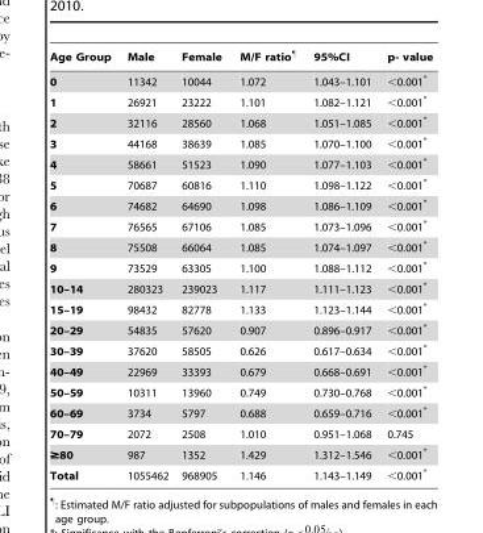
<table><thead><tr><td>Age Group</td><td>Male</td><td>Female</td><td>M/F ratio¶</td><td>95%CI</td><td>p- value</td></tr></thead><tbody><tr><td>0</td><td>11342</td><td>10044</td><td>1.072</td><td>1.043–1.101</td><td>&lt;0.001*</td></tr><tr><td>1</td><td>26921</td><td>23222</td><td>1.101</td><td>1.082–1.121</td><td>&lt;0.001*</td></tr><tr><td>2</td><td>32116</td><td>28560</td><td>1.068</td><td>1.051–1.085</td><td>&lt;0.001*</td></tr><tr><td>3</td><td>44168</td><td>38639</td><td>1.085</td><td>1.070–1.100</td><td>&lt;0.001*</td></tr><tr><td>4</td><td>58661</td><td>51523</td><td>1.090</td><td>1.077–1.103</td><td>&lt;0.001*</td></tr><tr><td>5</td><td>70687</td><td>60816</td><td>1.110</td><td>1.098–1.122</td><td>&lt;0.001*</td></tr><tr><td>6</td><td>74682</td><td>64690</td><td>1.098</td><td>1.086–1.109</td><td>&lt;0.001*</td></tr><tr><td>7</td><td>76565</td><td>67106</td><td>1.085</td><td>1.073–1.096</td><td>&lt;0.001*</td></tr><tr><td>8</td><td>75508</td><td>66064</td><td>1.085</td><td>1.074–1.097</td><td>&lt;0.001*</td></tr><tr><td>9</td><td>73529</td><td>63305</td><td>1.100</td><td>1.088–1.112</td><td>&lt;0.001*</td></tr><tr><td>10–14</td><td>280323</td><td>239023</td><td>1.117</td><td>1.111–1.123</td><td>&lt;0.001*</td></tr><tr><td>15–19</td><td>98432</td><td>82778</td><td>1.133</td><td>1.123–1.144</td><td>&lt;0.001*</td></tr><tr><td>20–29</td><td>54835</td><td>57620</td><td>0.907</td><td>0.896–0.917</td><td>&lt;0.001*</td></tr><tr><td>30–39</td><td>37620</td><td>58505</td><td>0.626</td><td>0.617–0.634</td><td>&lt;0.001*</td></tr><tr><td>40–49</td><td>22969</td><td>33393</td><td>0.679</td><td>0.668–0.691</td><td>&lt;0.001*</td></tr><tr><td>50–59</td><td>10311</td><td>13960</td><td>0.749</td><td>0.730–0.768</td><td>&lt;0.001*</td></tr><tr><td>60–69</td><td>3734</td><td>5797</td><td>0.688</td><td>0.659–0.716</td><td>&lt;0.001*</td></tr><tr><td>70–79</td><td>2072</td><td>2508</td><td>1.010</td><td>0.951–1.068</td><td>0.745</td></tr><tr><td>≥80</td><td>987</td><td>1352</td><td>1.429</td><td>1.312–1.546</td><td>&lt;0.001*</td></tr><tr><td>Total</td><td>1055462</td><td>968905</td><td>1.146</td><td>1.143–1.149</td><td>&lt;0.001*</td></tr></tbody></table>